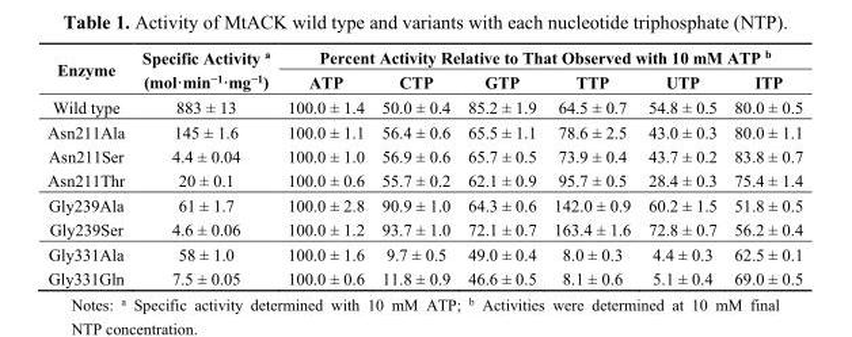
<table><thead><tr><td rowspan="2">Enzyme</td><td rowspan="2">Specific Activity <sup>a</sup> (mol·min<sup>−1</sup>·mg<sup>−1</sup>)</td><td colspan="6">Percent Activity Relative to That Observed with 10 mM ATP <sup>b</sup></td></tr><tr><td>ATP</td><td>CTP</td><td>GTP</td><td>TTP</td><td>UTP</td><td>ITP</td></tr></thead><tbody><tr><td>Wild type</td><td>883 ± 13</td><td>100.0 ± 1.4</td><td>50.0 ± 0.4</td><td>85.2 ± 1.9</td><td>64.5 ± 0.7</td><td>54.8 ± 0.5</td><td>80.0 ± 0.5</td></tr><tr><td>Asn211Ala</td><td>145 ± 1.6</td><td>100.0 ± 1.1</td><td>56.4 ± 0.6</td><td>65.5 ± 1.1</td><td>78.6 ± 2.5</td><td>43.0 ± 0.3</td><td>80.0 ± 1.1</td></tr><tr><td>Asn211Ser</td><td>4.4 ± 0.04</td><td>100.0 ± 1.0</td><td>56.9 ± 0.6</td><td>65.7 ± 0.5</td><td>73.9 ± 0.4</td><td>43.7 ± 0.2</td><td>83.8 ± 0.7</td></tr><tr><td>Asn211Thr</td><td>20 ± 0.1</td><td>100.0 ± 0.6</td><td>55.7 ± 0.2</td><td>62.1 ± 0.9</td><td>95.7 ± 0.5</td><td>28.4 ± 0.3</td><td>75.4 ± 1.4</td></tr><tr><td>Gly239Ala</td><td>61 ± 1.7</td><td>100.0 ± 2.8</td><td>90.9 ± 1.0</td><td>64.3 ± 0.6</td><td>142.0 ± 0.9</td><td>60.2 ± 1.5</td><td>51.8 ± 0.5</td></tr><tr><td>Gly239Ser</td><td>4.6 ± 0.06</td><td>100.0 ± 1.2</td><td>93.7 ± 1.0</td><td>72.1 ± 0.7</td><td>163.4 ± 1.6</td><td>72.8 ± 0.7</td><td>56.2 ± 0.4</td></tr><tr><td>Gly331Ala</td><td>58 ± 1.0</td><td>100.0 ± 1.6</td><td>9.7 ± 0.5</td><td>49.0 ± 0.4</td><td>8.0 ± 0.3</td><td>4.4 ± 0.3</td><td>62.5 ± 0.1</td></tr><tr><td>Gly331Gln</td><td>7.5 ± 0.05</td><td>100.0 ± 0.6</td><td>11.8 ± 0.9</td><td>46.6 ± 0.5</td><td>8.1 ± 0.6</td><td>5.1 ± 0.4</td><td>69.0 ± 0.5</td></tr></tbody></table>